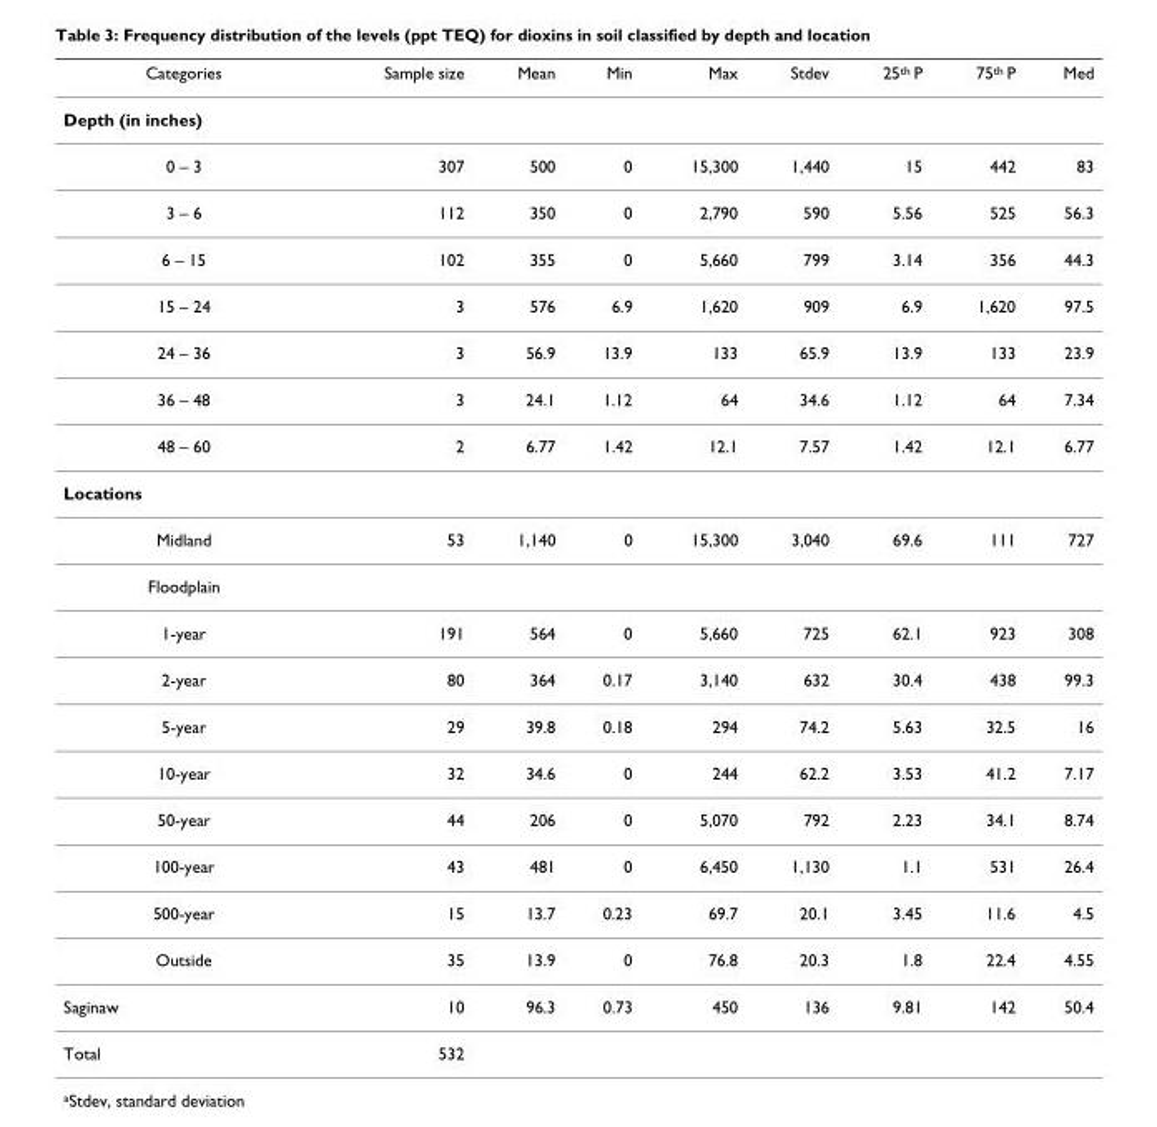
<table><thead><tr><td>Categories</td><td>Sample size</td><td>Mean</td><td>Min</td><td>Max</td><td>Stdev</td><td>25<sup>th</sup> P</td><td>75<sup>th</sup> P</td><td>Med</td></tr></thead><tbody><tr><td colspan="9">Depth (in inches)</td></tr><tr><td>0 – 3</td><td>307</td><td>500</td><td>0</td><td>15,300</td><td>1,440</td><td>15</td><td>442</td><td>83</td></tr><tr><td>3 – 6</td><td>112</td><td>350</td><td>0</td><td>2,790</td><td>590</td><td>5.56</td><td>525</td><td>56.3</td></tr><tr><td>6 – 15</td><td>102</td><td>355</td><td>0</td><td>5,660</td><td>799</td><td>3.14</td><td>356</td><td>44.3</td></tr><tr><td>15 – 24</td><td>3</td><td>576</td><td>6.9</td><td>1,620</td><td>909</td><td>6.9</td><td>1,620</td><td>97.5</td></tr><tr><td>24 – 36</td><td>3</td><td>56.9</td><td>13.9</td><td>133</td><td>65.9</td><td>13.9</td><td>133</td><td>23.9</td></tr><tr><td>36 – 48</td><td>3</td><td>24.1</td><td>1.12</td><td>64</td><td>34.6</td><td>1.12</td><td>64</td><td>7.34</td></tr><tr><td>48 – 60</td><td>2</td><td>6.77</td><td>1.42</td><td>12.1</td><td>7.57</td><td>1.42</td><td>12.1</td><td>6.77</td></tr><tr><td colspan="9">Locations</td></tr><tr><td>Midland</td><td>53</td><td>1,140</td><td>0</td><td>15,300</td><td>3,040</td><td>69.6</td><td>111</td><td>727</td></tr><tr><td colspan="9">Floodplain</td></tr><tr><td>1-year</td><td>191</td><td>564</td><td>0</td><td>5,660</td><td>725</td><td>62.1</td><td>923</td><td>308</td></tr><tr><td>2-year</td><td>80</td><td>364</td><td>0.17</td><td>3,140</td><td>632</td><td>30.4</td><td>438</td><td>99.3</td></tr><tr><td>5-year</td><td>29</td><td>39.8</td><td>0.18</td><td>294</td><td>74.2</td><td>5.63</td><td>32.5</td><td>16</td></tr><tr><td>10-year</td><td>32</td><td>34.6</td><td>0</td><td>244</td><td>62.2</td><td>3.53</td><td>41.2</td><td>7.17</td></tr><tr><td>50-year</td><td>44</td><td>206</td><td>0</td><td>5,070</td><td>792</td><td>2.23</td><td>34.1</td><td>8.74</td></tr><tr><td>100-year</td><td>43</td><td>481</td><td>0</td><td>6,450</td><td>1,130</td><td>1.1</td><td>531</td><td>26.4</td></tr><tr><td>500-year</td><td>15</td><td>13.7</td><td>0.23</td><td>69.7</td><td>20.1</td><td>3.45</td><td>11.6</td><td>4.5</td></tr><tr><td>Outside</td><td>35</td><td>13.9</td><td>0</td><td>76.8</td><td>20.3</td><td>1.8</td><td>22.4</td><td>4.55</td></tr><tr><td>Saginaw</td><td>10</td><td>96.3</td><td>0.73</td><td>450</td><td>136</td><td>9.81</td><td>142</td><td>50.4</td></tr><tr><td>Total</td><td>532</td><td></td><td></td><td></td><td></td><td></td><td></td><td></td></tr></tbody></table>